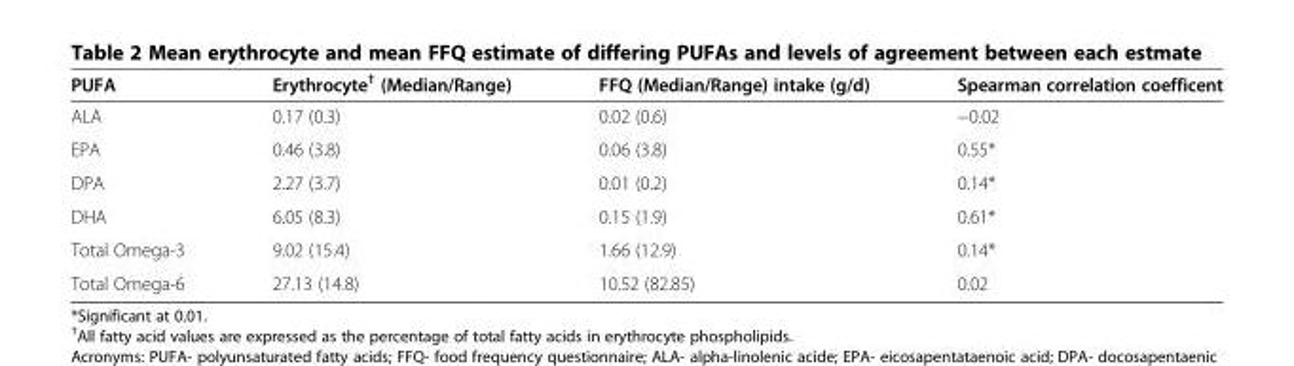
<table><thead><tr><td>PUFA</td><td>Erythrocyte<sup>†</sup> (Median/Range)</td><td>FFQ (Median/Range) intake (g/d)</td><td>Spearman correlation coefficent</td></tr></thead><tbody><tr><td>ALA</td><td>0.17 (0.3)</td><td>0.02 (0.6)</td><td>−0.02</td></tr><tr><td>EPA</td><td>0.46 (3.8)</td><td>0.06 (3.8)</td><td>0.55*</td></tr><tr><td>DPA</td><td>2.27 (3.7)</td><td>0.01 (0.2)</td><td>0.14*</td></tr><tr><td>DHA</td><td>6.05 (8.3)</td><td>0.15 (1.9)</td><td>0.61*</td></tr><tr><td>Total Omega-3</td><td>9.02 (15.4)</td><td>1.66 (12.9)</td><td>0.14*</td></tr><tr><td>Total Omega-6</td><td>27.13 (14.8)</td><td>10.52 (82.85)</td><td>0.02</td></tr></tbody></table>